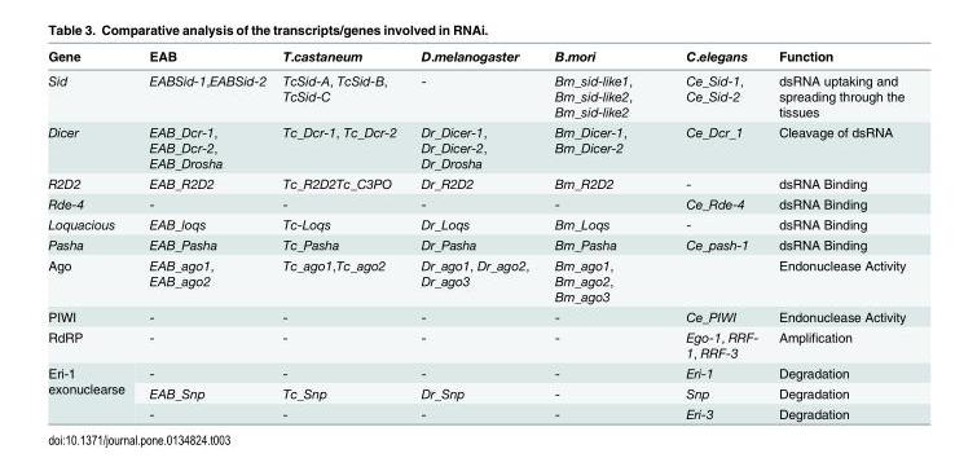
<table><thead><tr><td>Gene</td><td>EAB</td><td>T.castaneum</td><td>D.melanogaster</td><td>B.mori</td><td>C.elegans</td><td>Function</td></tr></thead><tbody><tr><td>Sid</td><td>EABSid-1,EABSid-2</td><td>TcSid-A, TcSid-B, TcSid-C</td><td>-</td><td>Bm_sid-like1, Bm_sid-like2, Bm_sid-like2</td><td>Ce_Sid-1, Ce_Sid-2</td><td>dsRNA uptaking and spreading through the tissues</td></tr><tr><td>Dicer</td><td>EAB_Dcr-1, EAB_Dcr-2, EAB_Drosha</td><td>Tc_Dcr-1, Tc_Dcr-2</td><td>Dr_Dicer-1, Dr_Dicer-2, Dr_Drosha</td><td>Bm_Dicer-1, Bm_Dicer-2</td><td>Ce_Dcr_1</td><td>Cleavage of dsRNA</td></tr><tr><td>R2D2</td><td>EAB_R2D2</td><td>Tc_R2D2Tc_C3PO</td><td>Dr_R2D2</td><td>Bm_R2D2</td><td>-</td><td>dsRNA Binding</td></tr><tr><td>Rde-4</td><td>-</td><td>-</td><td>-</td><td>-</td><td>Ce_Rde-4</td><td>dsRNA Binding</td></tr><tr><td>Loquacious</td><td>EAB_loqs</td><td>Tc-Loqs</td><td>Dr_Loqs</td><td>Bm_Loqs</td><td>-</td><td>dsRNA Binding</td></tr><tr><td>Pasha</td><td>EAB_Pasha</td><td>Tc_Pasha</td><td>Dr_Pasha</td><td>Bm_Pasha</td><td>Ce_pash-1</td><td>dsRNA Binding</td></tr><tr><td>Ago</td><td>EAB_ago1, EAB_ago2</td><td>Tc_ago1,Tc_ago2</td><td>Dr_ago1, Dr_ago2, Dr_ago3</td><td>Bm_ago1, Bm_ago2, Bm_ago3</td><td></td><td>Endonuclease Activity</td></tr><tr><td>PIWI</td><td>-</td><td>-</td><td>-</td><td>-</td><td>Ce_PIWI</td><td>Endonuclease Activity</td></tr><tr><td>RdRP</td><td>-</td><td>-</td><td>-</td><td>-</td><td>Ego-1, RRF- 1, RRF-3</td><td>Amplification</td></tr><tr><td rowspan="3">Eri-1 exonuclearse</td><td>-</td><td>-</td><td>-</td><td>-</td><td>Eri-1</td><td>Degradation</td></tr><tr><td>EAB_Snp</td><td>Tc_Snp</td><td>Dr_Snp</td><td>-</td><td>Snp</td><td>Degradation</td></tr><tr><td>-</td><td>-</td><td>-</td><td>-</td><td>Eri-3</td><td>Degradation</td></tr></tbody></table>